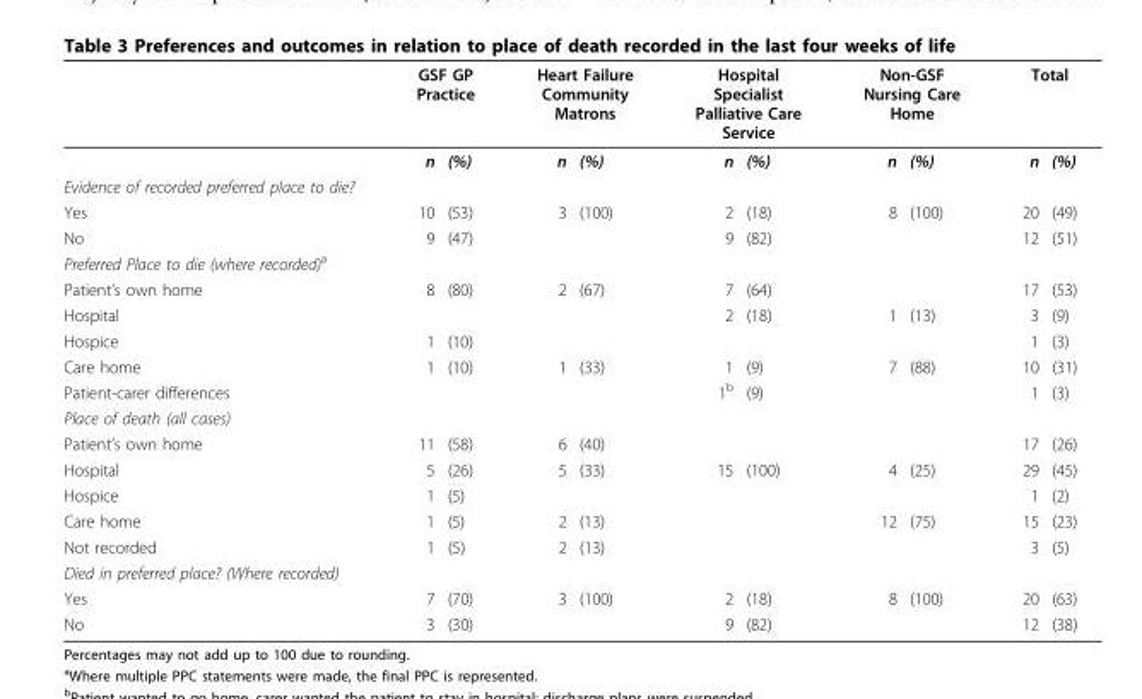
<table><thead><tr><td rowspan="2"></td><td colspan="2">GSF GP Practice</td><td colspan="2">Heart Failure Community Matrons</td><td colspan="2">Hospital Specialist Palliative Care Service</td><td colspan="2">Non-GSF Nursing Care Home</td><td colspan="2">Total</td></tr><tr><td>n</td><td>(%)</td><td>n</td><td>(%)</td><td>n</td><td>(%)</td><td>n</td><td>(%)</td><td>n</td><td>(%)</td></tr></thead><tbody><tr><td colspan="11">Evidence of recorded preferred place to die?</td></tr><tr><td>Yes</td><td>10</td><td>(53)</td><td>3</td><td>(100)</td><td>2</td><td>(18)</td><td>8</td><td>(100)</td><td>20</td><td>(49)</td></tr><tr><td>No</td><td>9</td><td>(47)</td><td></td><td></td><td>9</td><td>(82)</td><td></td><td></td><td>12</td><td>(51)</td></tr><tr><td colspan="11">Preferred Place to die (where recorded)<sup>a</sup></td></tr><tr><td>Patient’s own home</td><td>8</td><td>(80)</td><td>2</td><td>(67)</td><td>7</td><td>(64)</td><td></td><td></td><td>17</td><td>(53)</td></tr><tr><td>Hospital</td><td></td><td></td><td></td><td></td><td>2</td><td>(18)</td><td>1</td><td>(13)</td><td>3</td><td>(9)</td></tr><tr><td>Hospice</td><td>1</td><td>(10)</td><td></td><td></td><td></td><td></td><td></td><td></td><td>1</td><td>(3)</td></tr><tr><td>Care home</td><td>1</td><td>(10)</td><td>1</td><td>(33)</td><td>1</td><td>(9)</td><td>7</td><td>(88)</td><td>10</td><td>(31)</td></tr><tr><td>Patient-carer differences</td><td></td><td></td><td></td><td></td><td>1<sup>b</sup></td><td>(9)</td><td></td><td></td><td>1</td><td>(3)</td></tr><tr><td colspan="11">Place of death (all cases)</td></tr><tr><td>Patient’s own home</td><td>11</td><td>(58)</td><td>6</td><td>(40)</td><td></td><td></td><td></td><td></td><td>17</td><td>(26)</td></tr><tr><td>Hospital</td><td>5</td><td>(26)</td><td>5</td><td>(33)</td><td>15</td><td>(100)</td><td>4</td><td>(25)</td><td>29</td><td>(45)</td></tr><tr><td>Hospice</td><td>1</td><td>(5)</td><td></td><td></td><td></td><td></td><td></td><td></td><td>1</td><td>(2)</td></tr><tr><td>Care home</td><td>1</td><td>(5)</td><td>2</td><td>(13)</td><td></td><td></td><td>12</td><td>(75)</td><td>15</td><td>(23)</td></tr><tr><td>Not recorded</td><td>1</td><td>(5)</td><td>2</td><td>(13)</td><td></td><td></td><td></td><td></td><td>3</td><td>(5)</td></tr><tr><td colspan="11">Died in preferred place? (Where recorded)</td></tr><tr><td>Yes</td><td>7</td><td>(70)</td><td>3</td><td>(100)</td><td>2</td><td>(18)</td><td>8</td><td>(100)</td><td>20</td><td>(63)</td></tr><tr><td>No</td><td>3</td><td>(30)</td><td></td><td></td><td>9</td><td>(82)</td><td></td><td></td><td>12</td><td>(38)</td></tr></tbody></table>